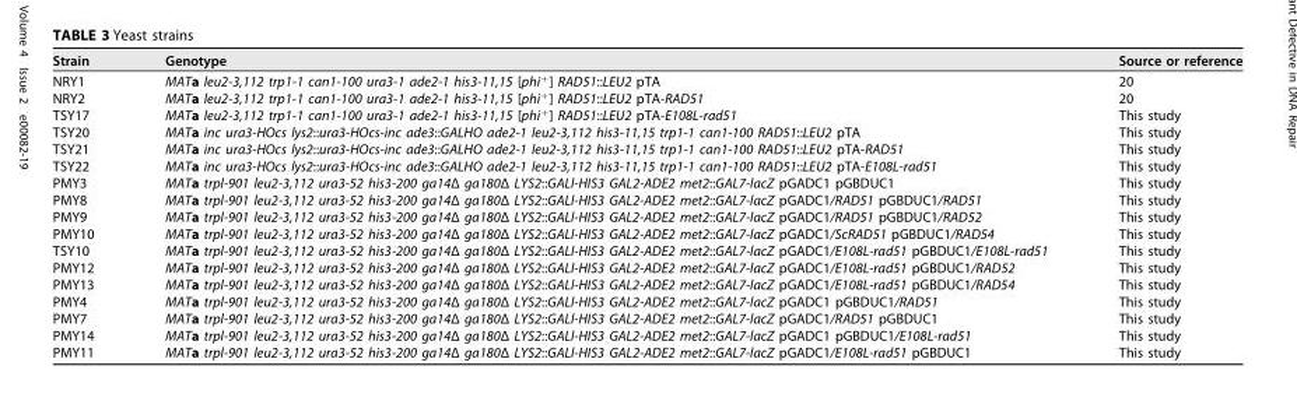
<table><thead><tr><td>Strain</td><td>Genotype</td><td>Source or reference</td></tr></thead><tbody><tr><td>NRY1</td><td>MATa leu2-3,112 trp1-1 can1-100 ura3-1 ade2-1 his3-11,15 [phi<sup>+</sup>] RAD51::LEU2 pTA</td><td>20</td></tr><tr><td>NRY2</td><td>MATa leu2-3,112 trp1-1 can1-100 ura3-1 ade2-1 his3-11,15 [phi<sup>+</sup>] RAD51::LEU2 pTA-RAD51</td><td>20</td></tr><tr><td>TSY17</td><td>MATa leu2-3,112 trp1-1 can1-100 ura3-1 ade2-1 his3-11,15 [phi<sup>+</sup>] RAD51::LEU2 pTA-E108L-rad51</td><td>This study</td></tr><tr><td>TSY20</td><td>MATa inc ura3-HOcs lys2::ura3-HOcs-inc ade3::GALHO ade2-1 leu2-3,112 his3-11,15 trp1-1 can1-100 RAD51::LEU2 pTA</td><td>This study</td></tr><tr><td>TSY21</td><td>MATa inc ura3-HOcs lys2::ura3-HOcs-inc ade3::GALHO ade2-1 leu2-3,112 his3-11,15 trp1-1 can1-100 RAD51::LEU2 pTA-RAD51</td><td>This study</td></tr><tr><td>TSY22</td><td>MATa inc ura3-HOcs lys2::ura3-HOcs-inc ade3::GALHO ade2-1 leu2-3,112 his3-11,15 trp1-1 can1-100 RAD51::LEU2 pTA-E108L-rad51</td><td>This study</td></tr><tr><td>PMY3</td><td>MATa trpl-901 leu2-3,112 ura3-52 his3-200 ga14Δ ga180Δ LYS2::GALl-HIS3 GAL2-ADE2 met2::GAL7-lacZ pGADC1 pGBDUC1</td><td>This study</td></tr><tr><td>PMY8</td><td>MATa trpl-901 leu2-3,112 ura3-52 his3-200 ga14Δ ga180Δ LYS2::GALl-HIS3 GAL2-ADE2 met2::GAL7-lacZ pGADC1/RAD51 pGBDUC1/RAD51</td><td>This study</td></tr><tr><td>PMY9</td><td>MATa trpl-901 leu2-3,112 ura3-52 his3-200 ga14Δ ga180Δ LYS2::GALl-HIS3 GAL2-ADE2 met2::GAL7-lacZ pGADC1/RAD51 pGBDUC1/RAD52</td><td>This study</td></tr><tr><td>PMY10</td><td>MATa trpl-901 leu2-3,112 ura3-52 his3-200 ga14Δ ga180Δ LYS2::GALl-HIS3 GAL2-ADE2 met2::GAL7-lacZ pGADC1/ScRAD51 pGBDUC1/RAD54</td><td>This study</td></tr><tr><td>TSY10</td><td>MATa trpl-901 leu2-3,112 ura3-52 his3-200 ga14Δ ga180Δ LYS2::GALl-HIS3 GAL2-ADE2 met2::GAL7-lacZ pGADC1/E108L-rad51 pGBDUC1/E108L-rad51</td><td>This study</td></tr><tr><td>PMY12</td><td>MATa trpl-901 leu2-3,112 ura3-52 his3-200 ga14Δ ga180Δ LYS2::GALl-HIS3 GAL2-ADE2 met2::GAL7-lacZ pGADC1/E108L-rad51 pGBDUC1/RAD52</td><td>This study</td></tr><tr><td>PMY13</td><td>MATa trpl-901 leu2-3,112 ura3-52 his3-200 ga14Δ ga180Δ LYS2::GALl-HIS3 GAL2-ADE2 met2::GAL7-lacZ pGADC1/E108L-rad51 pGBDUC1/RAD54</td><td>This study</td></tr><tr><td>PMY4</td><td>MATa trpl-901 leu2-3,112 ura3-52 his3-200 ga14Δ ga180Δ LYS2::GALl-HIS3 GAL2-ADE2 met2::GAL7-lacZ pGADC1 pGBDUC1/RAD51</td><td>This study</td></tr><tr><td>PMY7</td><td>MATa trpl-901 leu2-3,112 ura3-52 his3-200 ga14Δ ga180Δ LYS2::GALl-HIS3 GAL2-ADE2 met2::GAL7-lacZ pGADC1/RAD51 pGBDUC1</td><td>This study</td></tr><tr><td>PMY14</td><td>MATa trpl-901 leu2-3,112 ura3-52 his3-200 ga14Δ ga180Δ LYS2::GALl-HIS3 GAL2-ADE2 met2::GAL7-lacZ pGADC1 pGBDUC1/E108L-rad51</td><td>This study</td></tr><tr><td>PMY11</td><td>MATa trpl-901 leu2-3,112 ura3-52 his3-200 ga14Δ ga180Δ LYS2::GALl-HIS3 GAL2-ADE2 met2::GAL7-lacZ pGADC1/E108L-rad51 pGBDUC1</td><td>This study</td></tr></tbody></table>